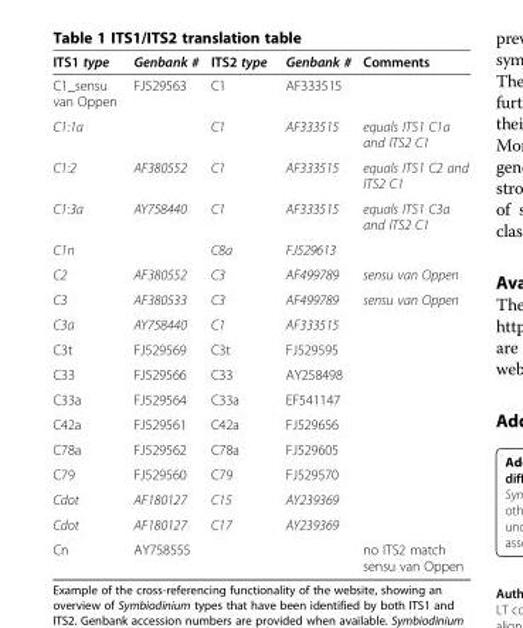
<table><thead><tr><td>ITS1 type</td><td>Genbank #</td><td>ITS2 type</td><td>Genbank #</td><td>Comments</td></tr></thead><tbody><tr><td>C1_sensu van Oppen</td><td>FJ529563</td><td>C1</td><td>AF333515</td><td></td></tr><tr><td>C1:1a</td><td></td><td>C1</td><td>AF333515</td><td>equals ITS1 C1a and ITS2 C1</td></tr><tr><td>C1:2</td><td>AF380552</td><td>C1</td><td>AF333515</td><td>equals ITS1 C2 and ITS2 C1</td></tr><tr><td>C1:3a</td><td>AY758440</td><td>C1</td><td>AF333515</td><td>equals ITS1 C3a and ITS2 C1</td></tr><tr><td>C1n</td><td></td><td>C8a</td><td>FJ529613</td><td></td></tr><tr><td>C2</td><td>AF380552</td><td>C3</td><td>AF499789</td><td>sensu van Oppen</td></tr><tr><td>C3</td><td>AF380533</td><td>C3</td><td>AF499789</td><td>sensu van Oppen</td></tr><tr><td>C3a</td><td>AY758440</td><td>C1</td><td>AF333515</td><td></td></tr><tr><td>C3t</td><td>FJ529569</td><td>C3t</td><td>FJ529595</td><td></td></tr><tr><td>C33</td><td>FJ529566</td><td>C33</td><td>AY258498</td><td></td></tr><tr><td>C33a</td><td>FJ529564</td><td>C33a</td><td>EF541147</td><td></td></tr><tr><td>C42a</td><td>FJ529561</td><td>C42a</td><td>FJ529656</td><td></td></tr><tr><td>C78a</td><td>FJ529562</td><td>C78a</td><td>FJ529605</td><td></td></tr><tr><td>C79</td><td>FJ529560</td><td>C79</td><td>FJ529570</td><td></td></tr><tr><td>Cdot</td><td>AF180127</td><td>C15</td><td>AY239369</td><td></td></tr><tr><td>Cdot</td><td>AF180127</td><td>C17</td><td>AY239369</td><td></td></tr><tr><td>Cn</td><td>AY758555</td><td></td><td></td><td>no ITS2 match sensu van Oppen</td></tr></tbody></table>